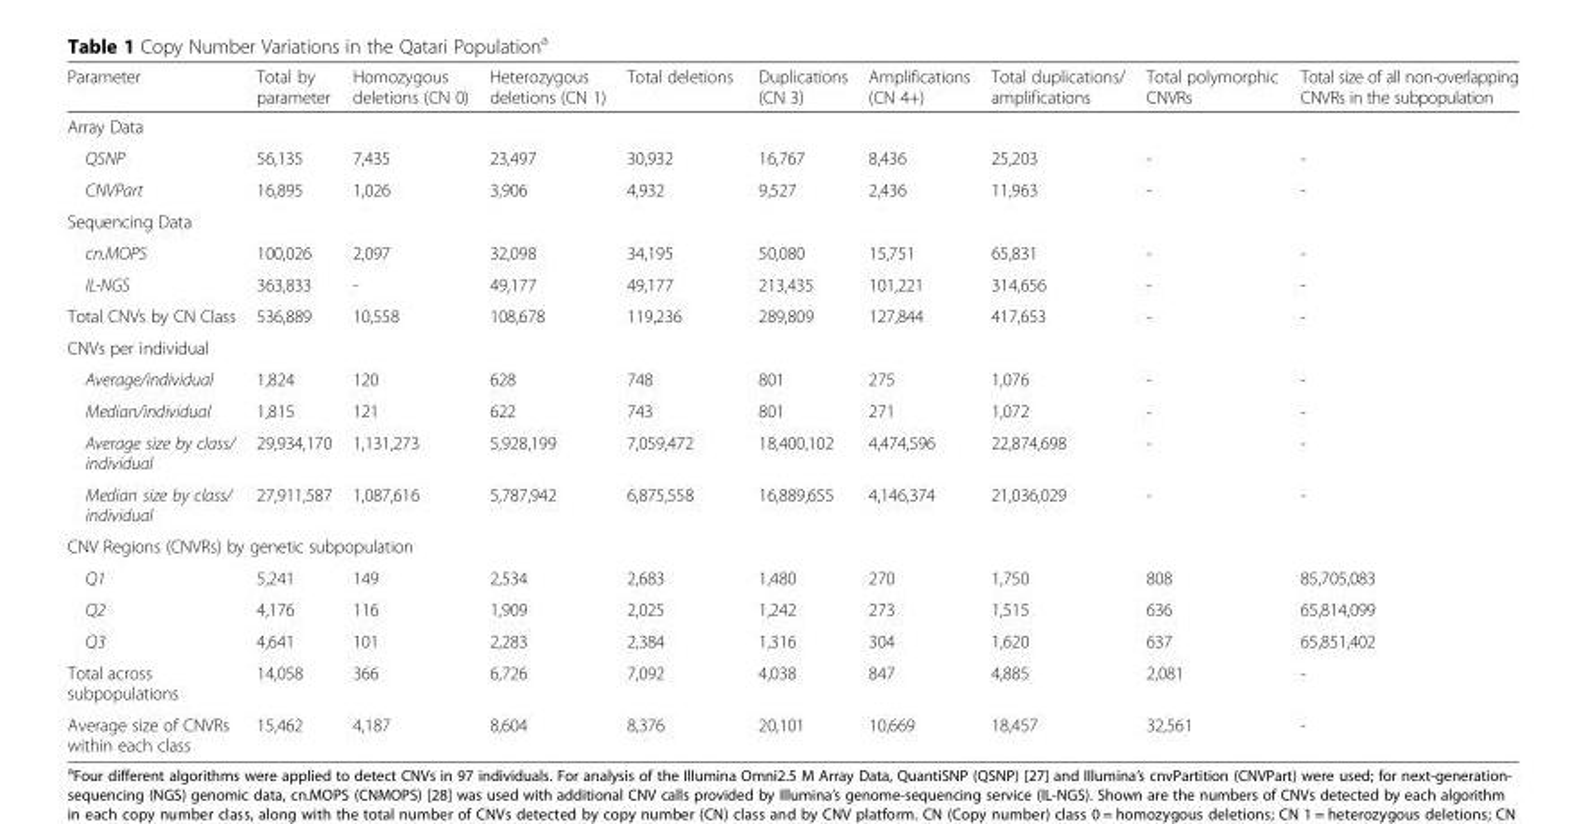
<table><thead><tr><td>Parameter</td><td>Total by parameter</td><td>Homozygous deletions (CN 0)</td><td>Heterozygous deletions (CN 1)</td><td>Total deletions</td><td>Duplications (CN 3)</td><td>Amplifications (CN 4+)</td><td>Total duplications/ amplifications</td><td>Total polymorphic CNVRs</td><td>Total size of all non-overlapping CNVRs in the subpopulation</td></tr></thead><tbody><tr><td colspan="10">Array Data</td></tr><tr><td>QSNP</td><td>56,135</td><td>7,435</td><td>23,497</td><td>30,932</td><td>16,767</td><td>8,436</td><td>25,203</td><td>-</td><td>-</td></tr><tr><td>CNVPart</td><td>16,895</td><td>1,026</td><td>3,906</td><td>4,932</td><td>9,527</td><td>2,436</td><td>11,963</td><td>-</td><td>-</td></tr><tr><td colspan="10">Sequencing Data</td></tr><tr><td>cn.MOPS</td><td>100,026</td><td>2,097</td><td>32,098</td><td>34,195</td><td>50,080</td><td>15,751</td><td>65,831</td><td>-</td><td>-</td></tr><tr><td>IL-NGS</td><td>363,833</td><td>-</td><td>49,177</td><td>49,177</td><td>213,435</td><td>101,221</td><td>314,656</td><td>-</td><td>-</td></tr><tr><td>Total CNVs by CN Class</td><td>536,889</td><td>10,558</td><td>108,678</td><td>119,236</td><td>289,809</td><td>127,844</td><td>417,653</td><td>-</td><td>-</td></tr><tr><td colspan="10">CNVs per individual</td></tr><tr><td>Average/individual</td><td>1,824</td><td>120</td><td>628</td><td>748</td><td>801</td><td>275</td><td>1,076</td><td>-</td><td>-</td></tr><tr><td>Median/individual</td><td>1,815</td><td>121</td><td>622</td><td>743</td><td>801</td><td>271</td><td>1,072</td><td>-</td><td>-</td></tr><tr><td>Average size by class/ individual</td><td>29,934,170</td><td>1,131,273</td><td>5,928,199</td><td>7,059,472</td><td>18,400,102</td><td>4,474,596</td><td>22,874,698</td><td>-</td><td>-</td></tr><tr><td>Median size by class/ individual</td><td>27,911,587</td><td>1,087,616</td><td>5,787,942</td><td>6,875,558</td><td>16,889,655</td><td>4,146,374</td><td>21,036,029</td><td>-</td><td>-</td></tr><tr><td colspan="10">CNV Regions (CNVRs) by genetic subpopulation</td></tr><tr><td>Q1</td><td>5,241</td><td>149</td><td>2,534</td><td>2,683</td><td>1,480</td><td>270</td><td>1,750</td><td>808</td><td>85,705,083</td></tr><tr><td>Q2</td><td>4,176</td><td>116</td><td>1,909</td><td>2,025</td><td>1,242</td><td>273</td><td>1,515</td><td>636</td><td>65,814,099</td></tr><tr><td>Q3</td><td>4,641</td><td>101</td><td>2,283</td><td>2,384</td><td>1,316</td><td>304</td><td>1,620</td><td>637</td><td>65,851,402</td></tr><tr><td>Total across subpopulations</td><td>14,058</td><td>366</td><td>6,726</td><td>7,092</td><td>4,038</td><td>847</td><td>4,885</td><td>2,081</td><td>-</td></tr><tr><td>Average size of CNVRs within each class</td><td>15,462</td><td>4,187</td><td>8,604</td><td>8,376</td><td>20,101</td><td>10,669</td><td>18,457</td><td>32,561</td><td>-</td></tr></tbody></table>